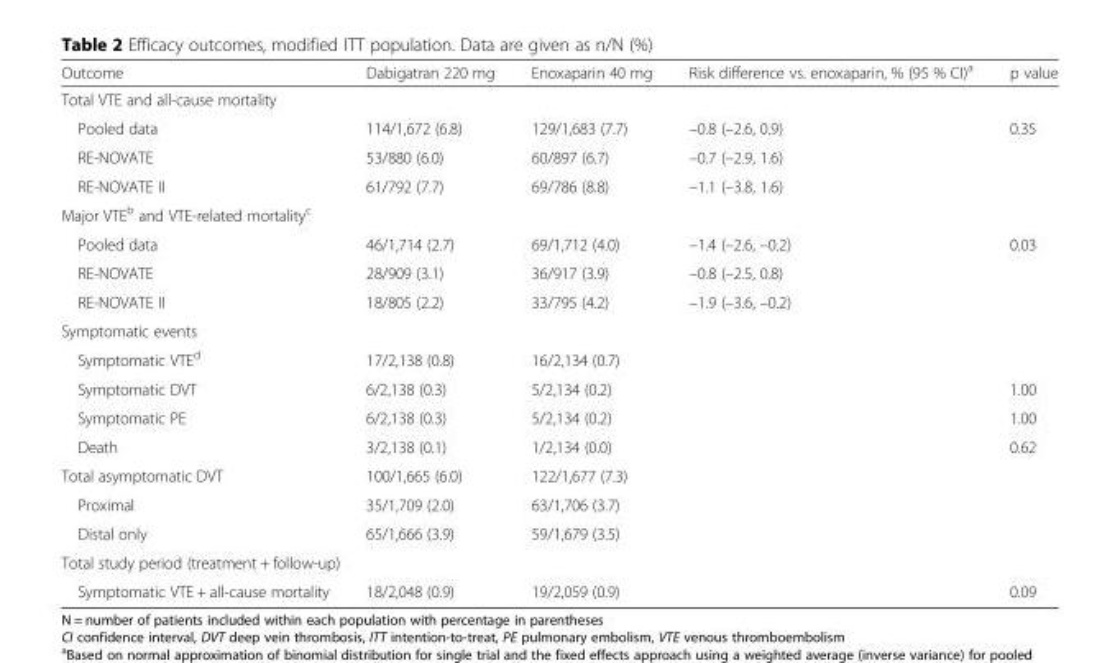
<table><thead><tr><td>Outcome</td><td>Dabigatran 220 mg</td><td>Enoxaparin 40 mg</td><td>Risk difference vs. enoxaparin, % (95 % CI)<sup>a</sup></td><td>p value</td></tr></thead><tbody><tr><td colspan="5">Total VTE and all-cause mortality</td></tr><tr><td>Pooled data</td><td>114/1,672 (6.8)</td><td>129/1,683 (7.7)</td><td>–0.8 (–2.6, 0.9)</td><td>0.35</td></tr><tr><td>RE-NOVATE</td><td>53/880 (6.0)</td><td>60/897 (6.7)</td><td>–0.7 (–2.9, 1.6)</td><td></td></tr><tr><td>RE-NOVATE II</td><td>61/792 (7.7)</td><td>69/786 (8.8)</td><td>–1.1 (–3.8, 1.6)</td><td></td></tr><tr><td colspan="5">Major VTE<sup>b</sup> and VTE-related mortality<sup>c</sup></td></tr><tr><td>Pooled data</td><td>46/1,714 (2.7)</td><td>69/1,712 (4.0)</td><td>–1.4 (–2.6, –0.2)</td><td>0.03</td></tr><tr><td>RE-NOVATE</td><td>28/909 (3.1)</td><td>36/917 (3.9)</td><td>–0.8 (–2.5, 0.8)</td><td></td></tr><tr><td>RE-NOVATE II</td><td>18/805 (2.2)</td><td>33/795 (4.2)</td><td>–1.9 (–3.6, –0.2)</td><td></td></tr><tr><td colspan="5">Symptomatic events</td></tr><tr><td>Symptomatic VTE<sup>d</sup></td><td>17/2,138 (0.8)</td><td>16/2,134 (0.7)</td><td></td><td></td></tr><tr><td>Symptomatic DVT</td><td>6/2,138 (0.3)</td><td>5/2,134 (0.2)</td><td></td><td>1.00</td></tr><tr><td>Symptomatic PE</td><td>6/2,138 (0.3)</td><td>5/2,134 (0.2)</td><td></td><td>1.00</td></tr><tr><td>Death</td><td>3/2,138 (0.1)</td><td>1/2,134 (0.0)</td><td></td><td>0.62</td></tr><tr><td>Total asymptomatic DVT</td><td>100/1,665 (6.0)</td><td>122/1,677 (7.3)</td><td></td><td></td></tr><tr><td>Proximal</td><td>35/1,709 (2.0)</td><td>63/1,706 (3.7)</td><td></td><td></td></tr><tr><td>Distal only</td><td>65/1,666 (3.9)</td><td>59/1,679 (3.5)</td><td></td><td></td></tr><tr><td colspan="5">Total study period (treatment + follow-up)</td></tr><tr><td>Symptomatic VTE + all-cause mortality</td><td>18/2,048 (0.9)</td><td>19/2,059 (0.9)</td><td></td><td>0.09</td></tr></tbody></table>